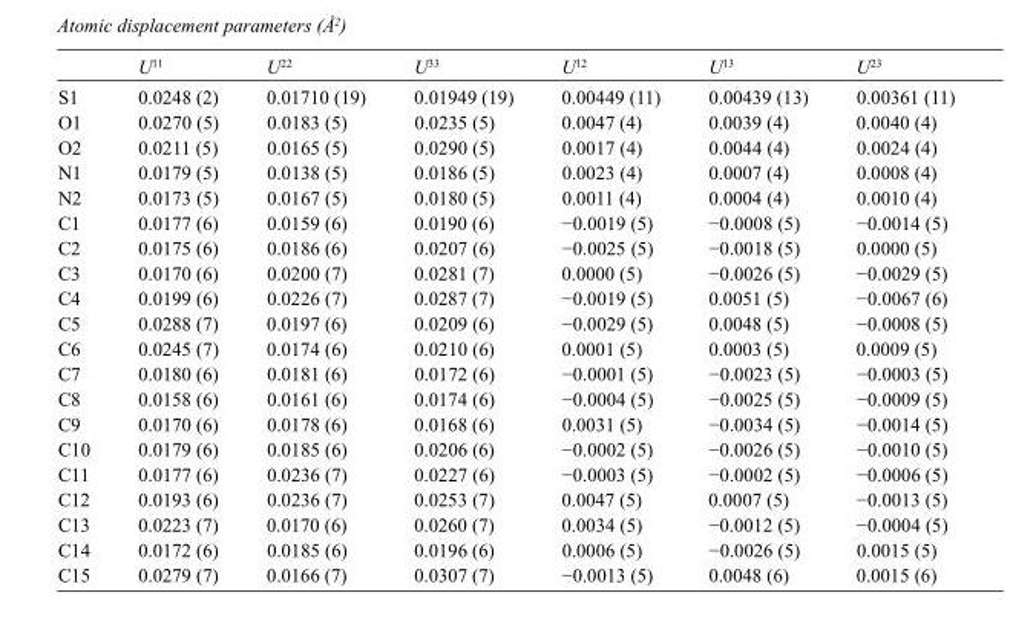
<table><thead><tr><td></td><td>U<sup>11</sup></td><td>U<sup>22</sup></td><td>U<sup>33</sup></td><td>U<sup>12</sup></td><td>U<sup>13</sup></td><td>U<sup>23</sup></td></tr></thead><tbody><tr><td>S1</td><td>0.0248 (2)</td><td>0.01710 (19)</td><td>0.01949 (19)</td><td>0.00449 (11)</td><td>0.00439 (13)</td><td>0.00361 (11)</td></tr><tr><td>O1</td><td>0.0270 (5)</td><td>0.0183 (5)</td><td>0.0235 (5)</td><td>0.0047 (4)</td><td>0.0039 (4)</td><td>0.0040 (4)</td></tr><tr><td>O2</td><td>0.0211 (5)</td><td>0.0165 (5)</td><td>0.0290 (5)</td><td>0.0017 (4)</td><td>0.0044 (4)</td><td>0.0024 (4)</td></tr><tr><td>N1</td><td>0.0179 (5)</td><td>0.0138 (5)</td><td>0.0186 (5)</td><td>0.0023 (4)</td><td>0.0007 (4)</td><td>0.0008 (4)</td></tr><tr><td>N2</td><td>0.0173 (5)</td><td>0.0167 (5)</td><td>0.0180 (5)</td><td>0.0011 (4)</td><td>0.0004 (4)</td><td>0.0010 (4)</td></tr><tr><td>C1</td><td>0.0177 (6)</td><td>0.0159 (6)</td><td>0.0190 (6)</td><td>−0.0019 (5)</td><td>−0.0008 (5)</td><td>−0.0014 (5)</td></tr><tr><td>C2</td><td>0.0175 (6)</td><td>0.0186 (6)</td><td>0.0207 (6)</td><td>−0.0025 (5)</td><td>−0.0018 (5)</td><td>0.0000 (5)</td></tr><tr><td>C3</td><td>0.0170 (6)</td><td>0.0200 (7)</td><td>0.0281 (7)</td><td>0.0000 (5)</td><td>−0.0026 (5)</td><td>−0.0029 (5)</td></tr><tr><td>C4</td><td>0.0199 (6)</td><td>0.0226 (7)</td><td>0.0287 (7)</td><td>−0.0019 (5)</td><td>0.0051 (5)</td><td>−0.0067 (6)</td></tr><tr><td>C5</td><td>0.0288 (7)</td><td>0.0197 (6)</td><td>0.0209 (6)</td><td>−0.0029 (5)</td><td>0.0048 (5)</td><td>−0.0008 (5)</td></tr><tr><td>C6</td><td>0.0245 (7)</td><td>0.0174 (6)</td><td>0.0210 (6)</td><td>0.0001 (5)</td><td>0.0003 (5)</td><td>0.0009 (5)</td></tr><tr><td>C7</td><td>0.0180 (6)</td><td>0.0181 (6)</td><td>0.0172 (6)</td><td>−0.0001 (5)</td><td>−0.0023 (5)</td><td>−0.0003 (5)</td></tr><tr><td>C8</td><td>0.0158 (6)</td><td>0.0161 (6)</td><td>0.0174 (6)</td><td>−0.0004 (5)</td><td>−0.0025 (5)</td><td>−0.0009 (5)</td></tr><tr><td>C9</td><td>0.0170 (6)</td><td>0.0178 (6)</td><td>0.0168 (6)</td><td>0.0031 (5)</td><td>−0.0034 (5)</td><td>−0.0014 (5)</td></tr><tr><td>C10</td><td>0.0179 (6)</td><td>0.0185 (6)</td><td>0.0206 (6)</td><td>−0.0002 (5)</td><td>−0.0026 (5)</td><td>−0.0010 (5)</td></tr><tr><td>C11</td><td>0.0177 (6)</td><td>0.0236 (7)</td><td>0.0227 (6)</td><td>−0.0003 (5)</td><td>−0.0002 (5)</td><td>−0.0006 (5)</td></tr><tr><td>C12</td><td>0.0193 (6)</td><td>0.0236 (7)</td><td>0.0253 (7)</td><td>0.0047 (5)</td><td>0.0007 (5)</td><td>−0.0013 (5)</td></tr><tr><td>C13</td><td>0.0223 (7)</td><td>0.0170 (6)</td><td>0.0260 (7)</td><td>0.0034 (5)</td><td>−0.0012 (5)</td><td>−0.0004 (5)</td></tr><tr><td>C14</td><td>0.0172 (6)</td><td>0.0185 (6)</td><td>0.0196 (6)</td><td>0.0006 (5)</td><td>−0.0026 (5)</td><td>0.0015 (5)</td></tr><tr><td>C15</td><td>0.0279 (7)</td><td>0.0166 (7)</td><td>0.0307 (7)</td><td>−0.0013 (5)</td><td>0.0048 (6)</td><td>0.0015 (6)</td></tr></tbody></table>